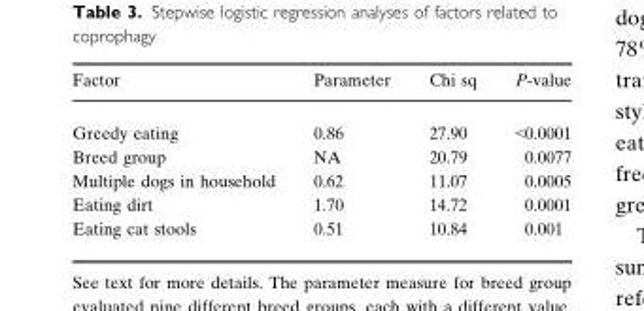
<table><thead><tr><td>Factor</td><td>Parameter</td><td>Chi sq</td><td>P-value</td></tr></thead><tbody><tr><td>Greedy eating</td><td>0.86</td><td>27.90</td><td>&lt;0.0001</td></tr><tr><td>Breed group</td><td>NA</td><td>20.79</td><td>0.0077</td></tr><tr><td>Multiple dogs in household</td><td>0.62</td><td>11.07</td><td>0.0005</td></tr><tr><td>Eating dirt</td><td>1.70</td><td>14.72</td><td>0.0001</td></tr><tr><td>Eating cat stools</td><td>0.51</td><td>10.84</td><td>0.001</td></tr></tbody></table>